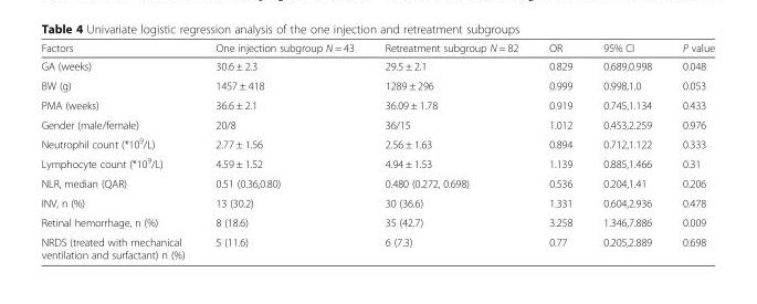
<table><thead><tr><td>Factors</td><td>One injection subgroup N = 43</td><td>Retreatment subgroup N = 82</td><td>OR</td><td>95% CI</td><td>P value</td></tr></thead><tbody><tr><td>GA (weeks)</td><td>30.6 ± 2.3</td><td>29.5 ± 2.1</td><td>0.829</td><td>0.689,0.998</td><td>0.048</td></tr><tr><td>BW (g)</td><td>1457 ± 418</td><td>1289 ± 296</td><td>0.999</td><td>0.998,1.0</td><td>0.053</td></tr><tr><td>PMA (weeks)</td><td>36.6 ± 2.1</td><td>36.09 ± 1.78</td><td>0.919</td><td>0.745,1.134</td><td>0.433</td></tr><tr><td>Gender (male/female)</td><td>20/8</td><td>36/15</td><td>1.012</td><td>0.453,2.259</td><td>0.976</td></tr><tr><td>Neutrophil count (*10<sup>9</sup>/L)</td><td>2.77 ± 1.56</td><td>2.56 ± 1.63</td><td>0.894</td><td>0.712,1.122</td><td>0.333</td></tr><tr><td>Lymphocyte count (*10<sup>9</sup>/L)</td><td>4.59 ± 1.52</td><td>4.94 ± 1.53</td><td>1.139</td><td>0.885,1.466</td><td>0.31</td></tr><tr><td>NLR, median (QAR)</td><td>0.51 (0.36,0.80)</td><td>0.480 (0.272, 0.698)</td><td>0.536</td><td>0.204,1.41</td><td>0.206</td></tr><tr><td>INV, n (%)</td><td>13 (30.2)</td><td>30 (36.6)</td><td>1.331</td><td>0.604,2.936</td><td>0.478</td></tr><tr><td>Retinal hemorrhage, n (%)</td><td>8 (18.6)</td><td>35 (42.7)</td><td>3.258</td><td>1.346,7.886</td><td>0.009</td></tr><tr><td>NRDS (treated with mechanical ventilation and surfactant) n (%)</td><td>5 (11.6)</td><td>6 (7.3)</td><td>0.77</td><td>0.205,2.889</td><td>0.698</td></tr></tbody></table>